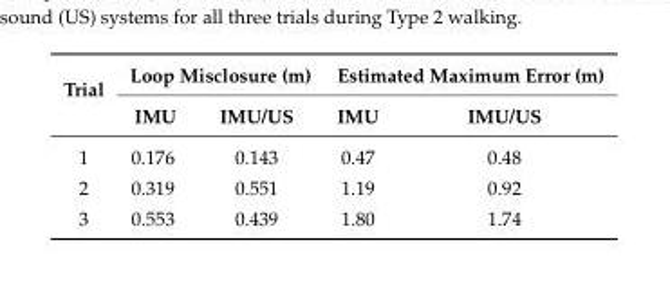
<table><thead><tr><td rowspan="2">Trial</td><td colspan="2">Loop Misclosure (m)</td><td colspan="2">Estimated Maximum Error (m)</td></tr><tr><td>IMU</td><td>IMU/US</td><td>IMU</td><td>IMU/US</td></tr></thead><tbody><tr><td>1</td><td>0.176</td><td>0.143</td><td>0.47</td><td>0.48</td></tr><tr><td>2</td><td>0.319</td><td>0.551</td><td>1.19</td><td>0.92</td></tr><tr><td>3</td><td>0.553</td><td>0.439</td><td>1.80</td><td>1.74</td></tr></tbody></table>